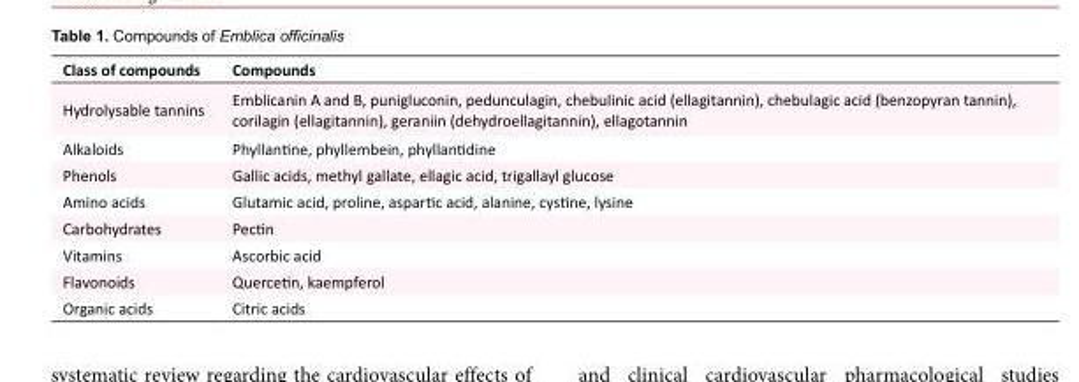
<table><tbody><tr><td>Class of compounds</td><td>Compounds</td></tr><tr><td>Hydrolysable tannins</td><td>Emblicanin A and B, punigluconin, pedunculagin, chebulinic acid (ellagitannin), chebulagic acid (benzopyran tannin), corilagin (ellagitannin), geraniin (dehydroellagitannin), ellagotannin</td></tr><tr><td>Alkaloids</td><td>Phyllantine, phyllembein, phyllantidine</td></tr><tr><td>Phenols</td><td>Gallic acids, methyl gallate, ellagic acid, trigallayl glucose</td></tr><tr><td>Amino acids</td><td>Glutamic acid, proline, aspartic acid, alanine, cystine, lysine</td></tr><tr><td>Carbohydrates</td><td>Pectin</td></tr><tr><td>Vitamins</td><td>Ascorbic acid</td></tr><tr><td>Flavonoids</td><td>Quercetin, kaempferol</td></tr><tr><td>Organic acids</td><td>Citric acids</td></tr></tbody></table>